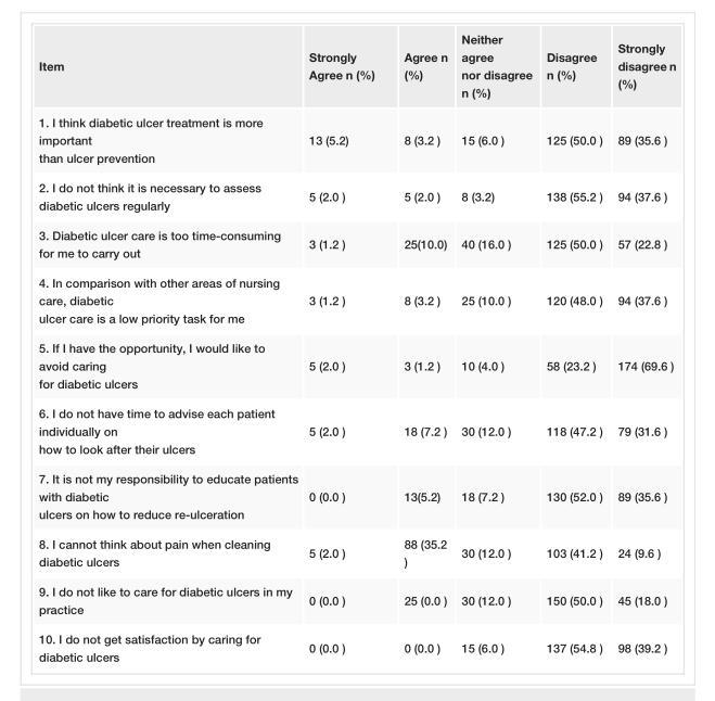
<table><tbody><tr><td>Item</td><td>Strongly Agree n (%)</td><td>Agree n (%)</td><td>Neither agree nor disagree n (%)</td><td>Disagree n (%)</td><td>Strongly disagree n (%)</td></tr><tr><td>1. I think diabetic ulcer treatment is more important than ulcer prevention</td><td>13 (5.2)</td><td>8 (3.2 )</td><td>15 (6.0 )</td><td>125 (50.0 )</td><td>89 (35.6 )</td></tr><tr><td>2. I do not think it is necessary to assess diabetic ulcers regularly</td><td>5 (2.0 )</td><td>5 (2.0 )</td><td>8 (3.2)</td><td>138 (55.2 )</td><td>94 (37.6 )</td></tr><tr><td>3. Diabetic ulcer care is too time-consuming for me to carry out</td><td>3 (1.2 )</td><td>25(10.0)</td><td>40 (16.0 )</td><td>125 (50.0 )</td><td>57 (22.8 )</td></tr><tr><td>4. In comparison with other areas of nursing care, diabetic ulcer care is a low priority task for me</td><td>3 (1.2 )</td><td>8 (3.2 )</td><td>25 (10.0 )</td><td>120 (48.0 )</td><td>94 (37.6 )</td></tr><tr><td>5. If I have the opportunity, I would like to avoid caring for diabetic ulcers</td><td>5 (2.0 )</td><td>3 (1.2 )</td><td>10 (4.0 )</td><td>58 (23.2 )</td><td>174 (69.6 )</td></tr><tr><td>6. I do not have time to advise each patient individually on how to look after their ulcers</td><td>5 (2.0 )</td><td>18 (7.2 )</td><td>30 (12.0 )</td><td>118 (47.2 )</td><td>79 (31.6 )</td></tr><tr><td>7. It is not my responsibility to educate patients with diabetic ulcers on how to reduce re-ulceration</td><td>0 (0.0 )</td><td>13(5.2)</td><td>18 (7.2 )</td><td>130 (52.0 )</td><td>89 (35.6 )</td></tr><tr><td>8. I cannot think about pain when cleaning diabetic ulcers</td><td>5 (2.0 )</td><td>88 (35.2 )</td><td>30 (12.0 )</td><td>103 (41.2 )</td><td>24 (9.6 )</td></tr><tr><td>9. I do not like to care for diabetic ulcers in my practice</td><td>0 (0.0 )</td><td>25 (0.0 )</td><td>30 (12.0 )</td><td>150 (50.0 )</td><td>45 (18.0 )</td></tr><tr><td>10. I do not get satisfaction by caring for diabetic ulcers</td><td>0 (0.0 )</td><td>0 (0.0 )</td><td>15 (6.0 )</td><td>137 (54.8 )</td><td>98 (39.2 )</td></tr></tbody></table>